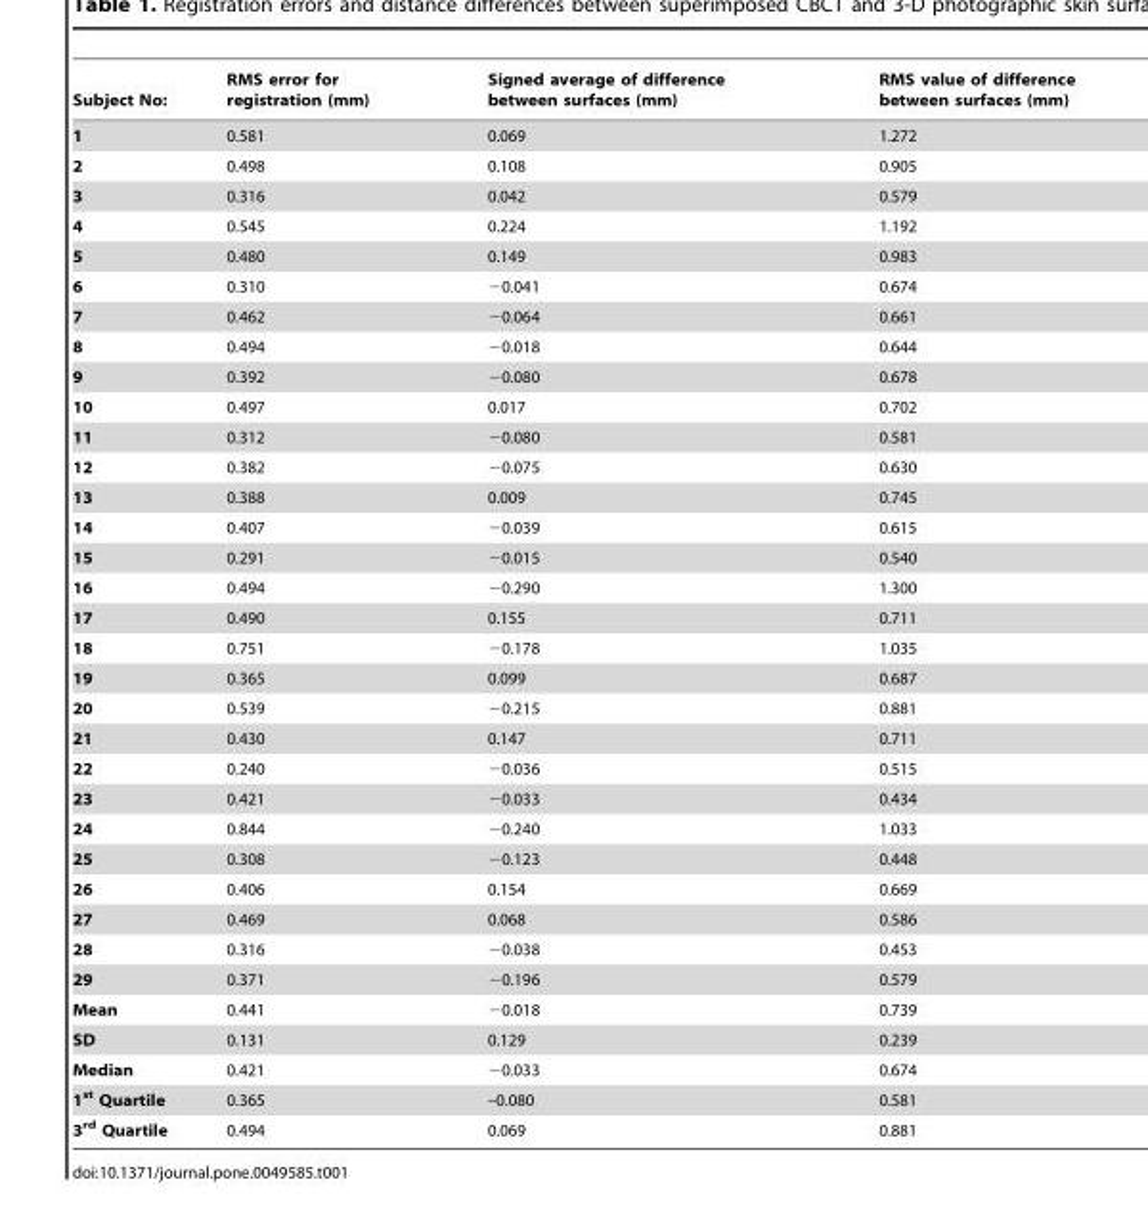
<table><thead><tr><td>Subject No:</td><td>RMS error for registration (mm)</td><td>Signed average of difference between surfaces (mm)</td><td>RMS value of difference between surfaces (mm)</td></tr></thead><tbody><tr><td>1</td><td>0.581</td><td>0.069</td><td>1.272</td></tr><tr><td>2</td><td>0.498</td><td>0.108</td><td>0.905</td></tr><tr><td>3</td><td>0.316</td><td>0.042</td><td>0.579</td></tr><tr><td>4</td><td>0.545</td><td>0.224</td><td>1.192</td></tr><tr><td>5</td><td>0.480</td><td>0.149</td><td>0.983</td></tr><tr><td>6</td><td>0.310</td><td>−0.041</td><td>0.674</td></tr><tr><td>7</td><td>0.462</td><td>−0.064</td><td>0.661</td></tr><tr><td>8</td><td>0.494</td><td>−0.018</td><td>0.644</td></tr><tr><td>9</td><td>0.392</td><td>−0.080</td><td>0.678</td></tr><tr><td>10</td><td>0.497</td><td>0.017</td><td>0.702</td></tr><tr><td>11</td><td>0.312</td><td>−0.080</td><td>0.581</td></tr><tr><td>12</td><td>0.382</td><td>−0.075</td><td>0.630</td></tr><tr><td>13</td><td>0.388</td><td>0.009</td><td>0.745</td></tr><tr><td>14</td><td>0.407</td><td>−0.039</td><td>0.615</td></tr><tr><td>15</td><td>0.291</td><td>−0.015</td><td>0.540</td></tr><tr><td>16</td><td>0.494</td><td>−0.290</td><td>1.300</td></tr><tr><td>17</td><td>0.490</td><td>0.155</td><td>0.711</td></tr><tr><td>18</td><td>0.751</td><td>−0.178</td><td>1.035</td></tr><tr><td>19</td><td>0.365</td><td>0.099</td><td>0.687</td></tr><tr><td>20</td><td>0.539</td><td>−0.215</td><td>0.881</td></tr><tr><td>21</td><td>0.430</td><td>0.147</td><td>0.711</td></tr><tr><td>22</td><td>0.240</td><td>−0.036</td><td>0.515</td></tr><tr><td>23</td><td>0.421</td><td>−0.033</td><td>0.434</td></tr><tr><td>24</td><td>0.844</td><td>−0.240</td><td>1.033</td></tr><tr><td>25</td><td>0.308</td><td>−0.123</td><td>0.448</td></tr><tr><td>26</td><td>0.406</td><td>0.154</td><td>0.669</td></tr><tr><td>27</td><td>0.469</td><td>0.068</td><td>0.586</td></tr><tr><td>28</td><td>0.316</td><td>−0.038</td><td>0.453</td></tr><tr><td>29</td><td>0.371</td><td>−0.196</td><td>0.579</td></tr><tr><td>Mean</td><td>0.441</td><td>−0.018</td><td>0.739</td></tr><tr><td>SD</td><td>0.131</td><td>0.129</td><td>0.239</td></tr><tr><td>Median</td><td>0.421</td><td>−0.033</td><td>0.674</td></tr><tr><td>1<sup>st</sup> Quartile</td><td>0.365</td><td>–0.080</td><td>0.581</td></tr><tr><td>3<sup>rd</sup> Quartile</td><td>0.494</td><td>0.069</td><td>0.881</td></tr></tbody></table>